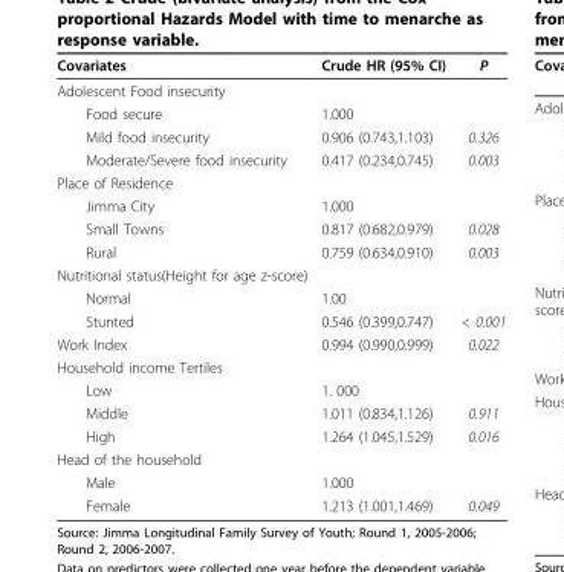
<table><thead><tr><td>Covariates</td><td>Crude HR (95% CI)</td><td>P</td></tr></thead><tbody><tr><td colspan="3">Adolescent Food insecurity</td></tr><tr><td>Food secure</td><td>1.000</td><td></td></tr><tr><td>Mild food insecurity</td><td>0.906 (0.743,1.103)</td><td>0.326</td></tr><tr><td>Moderate/Severe food insecurity</td><td>0.417 (0.234,0.745)</td><td>0.003</td></tr><tr><td colspan="3">Place of Residence</td></tr><tr><td>Jimma City</td><td>1.000</td><td></td></tr><tr><td>Small Towns</td><td>0.817 (0.682,0.979)</td><td>0.028</td></tr><tr><td>Rural</td><td>0.759 (0.634,0.910)</td><td>0.003</td></tr><tr><td colspan="3">Nutritional status(Height for age z-score)</td></tr><tr><td>Normal</td><td>1.00</td><td></td></tr><tr><td>Stunted</td><td>0.546 (0.399,0.747)</td><td>&lt; 0.001</td></tr><tr><td>Work Index</td><td>0.994 (0.990,0.999)</td><td>0.022</td></tr><tr><td colspan="3">Household income Tertiles</td></tr><tr><td>Low</td><td>1. 000</td><td></td></tr><tr><td>Middle</td><td>1.011 (0.834,1.126)</td><td>0.911</td></tr><tr><td>High</td><td>1.264 (1.045,1.529)</td><td>0.016</td></tr><tr><td colspan="3">Head of the household</td></tr><tr><td>Male</td><td>1.000</td><td></td></tr><tr><td>Female</td><td>1.213 (1.001,1.469)</td><td>0.049</td></tr></tbody></table>